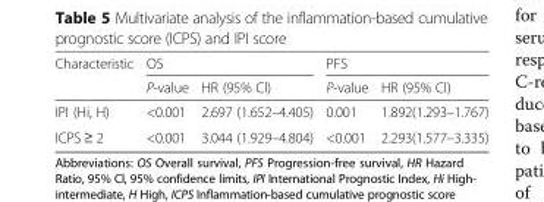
<table><thead><tr><td rowspan="2">Characteristic</td><td colspan="2">OS</td><td colspan="2">PFS</td></tr><tr><td>P-value</td><td>HR (95% Cl)</td><td>P-value</td><td>HR (95% Cl)</td></tr></thead><tbody><tr><td>IPI (Hi, H)</td><td>&lt;0.001</td><td>2.697 (1.652–4.405)</td><td>0.001</td><td>1.892(1.293–1.767)</td></tr><tr><td>ICPS ≥ 2</td><td>&lt;0.001</td><td>3.044 (1.929–4.804)</td><td>&lt;0.001</td><td>2.293(1.577–3.335)</td></tr></tbody></table>